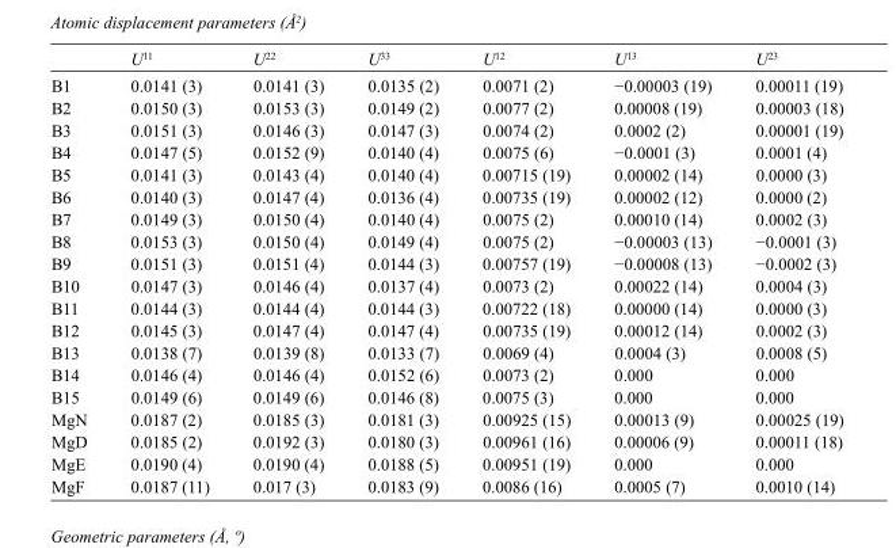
<table><thead><tr><td></td><td>U<sup>11</sup></td><td>U<sup>22</sup></td><td>U<sup>33</sup></td><td>U<sup>12</sup></td><td>U<sup>13</sup></td><td>U<sup>23</sup></td></tr></thead><tbody><tr><td>B1</td><td>0.0141 (3)</td><td>0.0141 (3)</td><td>0.0135 (2)</td><td>0.0071 (2)</td><td>−0.00003 (19)</td><td>0.00011 (19)</td></tr><tr><td>B2</td><td>0.0150 (3)</td><td>0.0153 (3)</td><td>0.0149 (2)</td><td>0.0077 (2)</td><td>0.00008 (19)</td><td>0.00003 (18)</td></tr><tr><td>B3</td><td>0.0151 (3)</td><td>0.0146 (3)</td><td>0.0147 (3)</td><td>0.0074 (2)</td><td>0.0002 (2)</td><td>0.00001 (19)</td></tr><tr><td>B4</td><td>0.0147 (5)</td><td>0.0152 (9)</td><td>0.0140 (4)</td><td>0.0075 (6)</td><td>−0.0001 (3)</td><td>0.0001 (4)</td></tr><tr><td>B5</td><td>0.0141 (3)</td><td>0.0143 (4)</td><td>0.0140 (4)</td><td>0.00715 (19)</td><td>0.00002 (14)</td><td>0.0000 (3)</td></tr><tr><td>B6</td><td>0.0140 (3)</td><td>0.0147 (4)</td><td>0.0136 (4)</td><td>0.00735 (19)</td><td>0.00002 (12)</td><td>0.0000 (2)</td></tr><tr><td>B7</td><td>0.0149 (3)</td><td>0.0150 (4)</td><td>0.0140 (4)</td><td>0.0075 (2)</td><td>0.00010 (14)</td><td>0.0002 (3)</td></tr><tr><td>B8</td><td>0.0153 (3)</td><td>0.0150 (4)</td><td>0.0149 (4)</td><td>0.0075 (2)</td><td>−0.00003 (13)</td><td>−0.0001 (3)</td></tr><tr><td>B9</td><td>0.0151 (3)</td><td>0.0151 (4)</td><td>0.0144 (3)</td><td>0.00757 (19)</td><td>−0.00008 (13)</td><td>−0.0002 (3)</td></tr><tr><td>B10</td><td>0.0147 (3)</td><td>0.0146 (4)</td><td>0.0137 (4)</td><td>0.0073 (2)</td><td>0.00022 (14)</td><td>0.0004 (3)</td></tr><tr><td>B11</td><td>0.0144 (3)</td><td>0.0144 (4)</td><td>0.0144 (3)</td><td>0.00722 (18)</td><td>0.00000 (14)</td><td>0.0000 (3)</td></tr><tr><td>B12</td><td>0.0145 (3)</td><td>0.0147 (4)</td><td>0.0147 (4)</td><td>0.00735 (19)</td><td>0.00012 (14)</td><td>0.0002 (3)</td></tr><tr><td>B13</td><td>0.0138 (7)</td><td>0.0139 (8)</td><td>0.0133 (7)</td><td>0.0069 (4)</td><td>0.0004 (3)</td><td>0.0008 (5)</td></tr><tr><td>B14</td><td>0.0146 (4)</td><td>0.0146 (4)</td><td>0.0152 (6)</td><td>0.0073 (2)</td><td>0.000</td><td>0.000</td></tr><tr><td>B15</td><td>0.0149 (6)</td><td>0.0149 (6)</td><td>0.0146 (8)</td><td>0.0075 (3)</td><td>0.000</td><td>0.000</td></tr><tr><td>MgN</td><td>0.0187 (2)</td><td>0.0185 (3)</td><td>0.0181 (3)</td><td>0.00925 (15)</td><td>0.00013 (9)</td><td>0.00025 (19)</td></tr><tr><td>MgD</td><td>0.0185 (2)</td><td>0.0192 (3)</td><td>0.0180 (3)</td><td>0.00961 (16)</td><td>0.00006 (9)</td><td>0.00011 (18)</td></tr><tr><td>MgE</td><td>0.0190 (4)</td><td>0.0190 (4)</td><td>0.0188 (5)</td><td>0.00951 (19)</td><td>0.000</td><td>0.000</td></tr><tr><td>MgF</td><td>0.0187 (11)</td><td>0.017 (3)</td><td>0.0183 (9)</td><td>0.0086 (16)</td><td>0.0005 (7)</td><td>0.0010 (14)</td></tr></tbody></table>